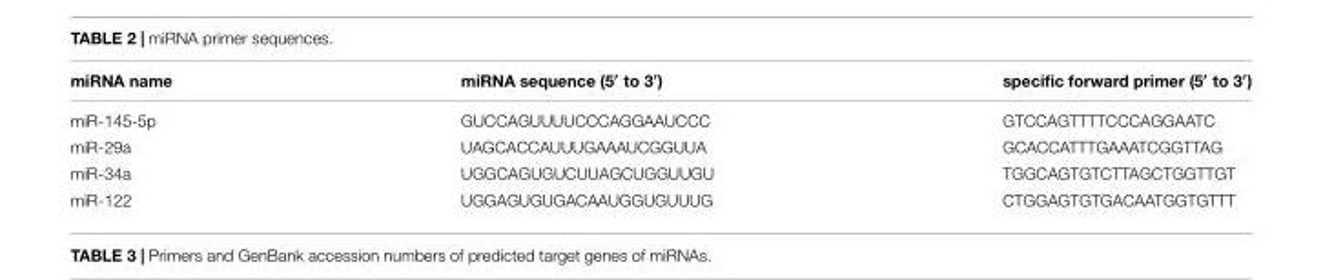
<table><thead><tr><td>miRNA name</td><td>miRNA sequence (5′ to 3′)</td><td>specific forward primer (5′ to 3′)</td></tr></thead><tbody><tr><td>miR-145-5p</td><td>GUCCAGUUUUCCCAGGAAUCCC</td><td>GTCCAGTTTTCCCAGGAATC</td></tr><tr><td>miR-29a</td><td>UAGCACCAUUUGAAAUCGGUUA</td><td>GCACCATTTGAAATCGGTTAG</td></tr><tr><td>miR-34a</td><td>UGGCAGUGUCUUAGCUGGUUGU</td><td>TGGCAGTGTCTTAGCTGGTTGT</td></tr><tr><td>miR-122</td><td>UGGAGUGUGACAAUGGUGUUUG</td><td>CTGGAGTGTGACAATGGTGTTT</td></tr></tbody></table>